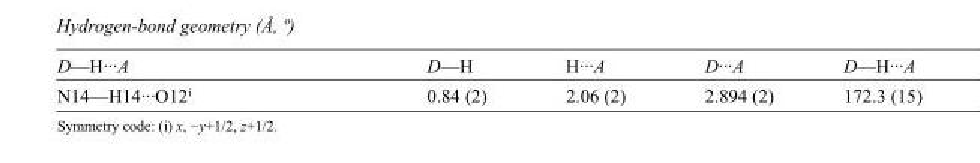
<table><tbody><tr><td>D—H···A</td><td>D—H</td><td>H···A</td><td>D···A</td><td>D—H···A</td></tr><tr><td>N14—H14···O12<sup>i</sup></td><td>0.84 (2)</td><td>2.06 (2)</td><td>2.894 (2)</td><td>172.3 (15)</td></tr></tbody></table>